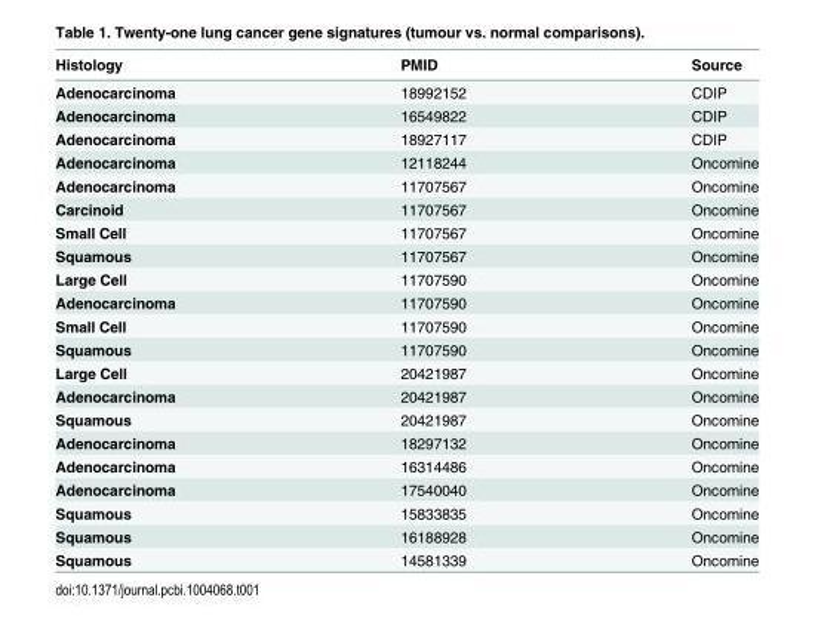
<table><thead><tr><td>Histology</td><td>PMID</td><td>Source</td></tr></thead><tbody><tr><td>Adenocarcinoma</td><td>18992152</td><td>CDIP</td></tr><tr><td>Adenocarcinoma</td><td>16549822</td><td>CDIP</td></tr><tr><td>Adenocarcinoma</td><td>18927117</td><td>CDIP</td></tr><tr><td>Adenocarcinoma</td><td>12118244</td><td>Oncomine</td></tr><tr><td>Adenocarcinoma</td><td>11707567</td><td>Oncomine</td></tr><tr><td>Carcinoid</td><td>11707567</td><td>Oncomine</td></tr><tr><td>Small Cell</td><td>11707567</td><td>Oncomine</td></tr><tr><td>Squamous</td><td>11707567</td><td>Oncomine</td></tr><tr><td>Large Cell</td><td>11707590</td><td>Oncomine</td></tr><tr><td>Adenocarcinoma</td><td>11707590</td><td>Oncomine</td></tr><tr><td>Small Cell</td><td>11707590</td><td>Oncomine</td></tr><tr><td>Squamous</td><td>11707590</td><td>Oncomine</td></tr><tr><td>Large Cell</td><td>20421987</td><td>Oncomine</td></tr><tr><td>Adenocarcinoma</td><td>20421987</td><td>Oncomine</td></tr><tr><td>Squamous</td><td>20421987</td><td>Oncomine</td></tr><tr><td>Adenocarcinoma</td><td>18297132</td><td>Oncomine</td></tr><tr><td>Adenocarcinoma</td><td>16314486</td><td>Oncomine</td></tr><tr><td>Adenocarcinoma</td><td>17540040</td><td>Oncomine</td></tr><tr><td>Squamous</td><td>15833835</td><td>Oncomine</td></tr><tr><td>Squamous</td><td>16188928</td><td>Oncomine</td></tr><tr><td>Squamous</td><td>14581339</td><td>Oncomine</td></tr></tbody></table>